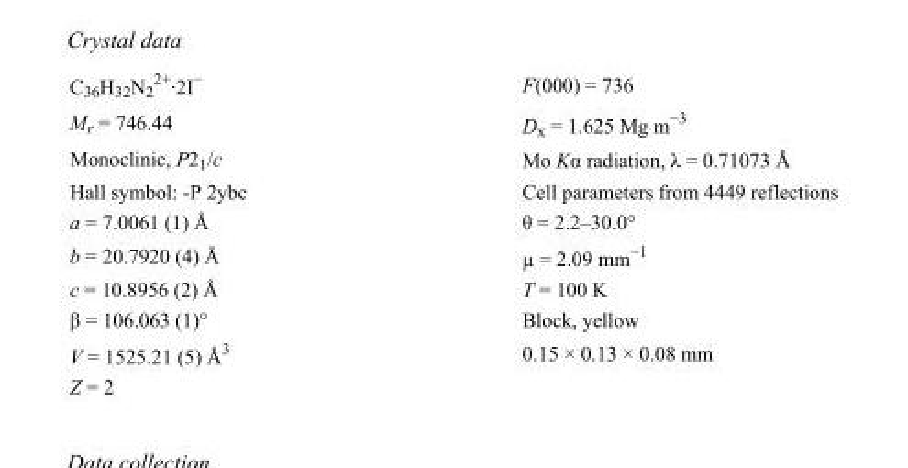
<table><tbody><tr><td>C<sub>36</sub>H<sub>32</sub>N<sub>2</sub> <sup>2+</sup>·2I<sup>−</sup></td><td>F(000) = 736</td></tr><tr><td>M<sub>r</sub> = 746.44</td><td>D<sub>x</sub> = 1.625 Mg m<sup>−3</sup></td></tr><tr><td>Monoclinic, P2<sub>1</sub>/c</td><td>Mo Kα radiation, λ = 0.71073 Å</td></tr><tr><td>Hall symbol: -P 2ybc</td><td>Cell parameters from 4449 reflections</td></tr><tr><td>a = 7.0061 (1) Å</td><td>θ = 2.2–30.0°</td></tr><tr><td>b = 20.7920 (4) Å</td><td>µ = 2.09 mm<sup>−1</sup></td></tr><tr><td>c = 10.8956 (2) Å</td><td>T = 100 K</td></tr><tr><td>β = 106.063 (1)°</td><td>Block, yellow</td></tr><tr><td>V = 1525.21 (5) Å<sup>3</sup></td><td>0.15 × 0.13 × 0.08 mm</td></tr><tr><td>Z = 2</td><td></td></tr></tbody></table>